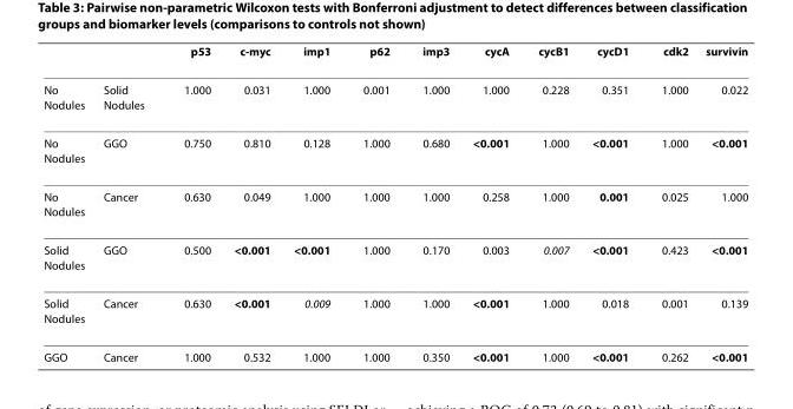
<table><thead><tr><td></td><td></td><td>p53</td><td>c-myc</td><td>imp1</td><td>p62</td><td>imp3</td><td>cycA</td><td>cycB1</td><td>cycD1</td><td>cdk2</td><td>survivin</td></tr></thead><tbody><tr><td>No Nodules</td><td>Solid Nodules</td><td>1.000</td><td>0.031</td><td>1.000</td><td>0.001</td><td>1.000</td><td>1.000</td><td>0.228</td><td>0.351</td><td>1.000</td><td>0.022</td></tr><tr><td>No Nodules</td><td>GGO</td><td>0.750</td><td>0.810</td><td>0.128</td><td>1.000</td><td>0.680</td><td>&lt;0.001</td><td>1.000</td><td>&lt;0.001</td><td>1.000</td><td>&lt;0.001</td></tr><tr><td>No Nodules</td><td>Cancer</td><td>0.630</td><td>0.049</td><td>1.000</td><td>1.000</td><td>1.000</td><td>0.258</td><td>1.000</td><td>0.001</td><td>0.025</td><td>1.000</td></tr><tr><td>Solid Nodules</td><td>GGO</td><td>0.500</td><td>&lt;0.001</td><td>&lt;0.001</td><td>1.000</td><td>0.170</td><td>0.003</td><td>0.007</td><td>&lt;0.001</td><td>0.423</td><td>&lt;0.001</td></tr><tr><td>Solid Nodules</td><td>Cancer</td><td>0.630</td><td>&lt;0.001</td><td>0.009</td><td>1.000</td><td>1.000</td><td>&lt;0.001</td><td>1.000</td><td>0.018</td><td>0.001</td><td>0.139</td></tr><tr><td>GGO</td><td>Cancer</td><td>1.000</td><td>0.532</td><td>1.000</td><td>1.000</td><td>0.350</td><td>&lt;0.001</td><td>1.000</td><td>&lt;0.001</td><td>0.262</td><td>&lt;0.001</td></tr></tbody></table>